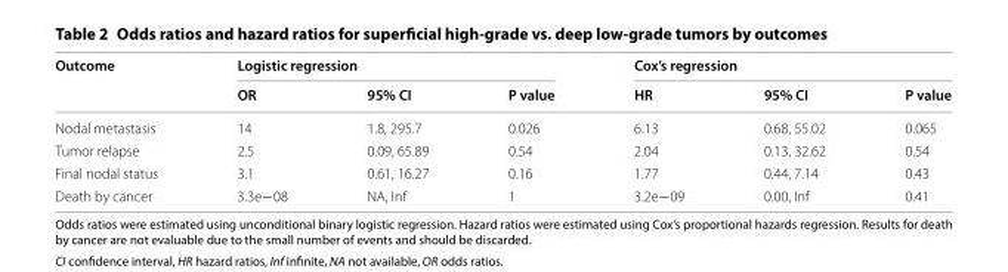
<table><thead><tr><td rowspan="2">Outcome</td><td colspan="3">Logistic regression</td><td colspan="3">Cox’s regression</td></tr><tr><td>OR</td><td>95% CI</td><td>P value</td><td>HR</td><td>95% CI</td><td>P value</td></tr></thead><tbody><tr><td>Nodal metastasis</td><td>14</td><td>1.8, 295.7</td><td>0.026</td><td>6.13</td><td>0.68, 55.02</td><td>0.065</td></tr><tr><td>Tumor relapse</td><td>2.5</td><td>0.09, 65.89</td><td>0.54</td><td>2.04</td><td>0.13, 32.62</td><td>0.54</td></tr><tr><td>Final nodal status</td><td>3.1</td><td>0.61, 16.27</td><td>0.16</td><td>1.77</td><td>0.44, 7.14</td><td>0.43</td></tr><tr><td>Death by cancer</td><td>3.3e−08</td><td>NA, Inf</td><td>1</td><td>3.2e−09</td><td>0.00, Inf</td><td>0.41</td></tr></tbody></table>